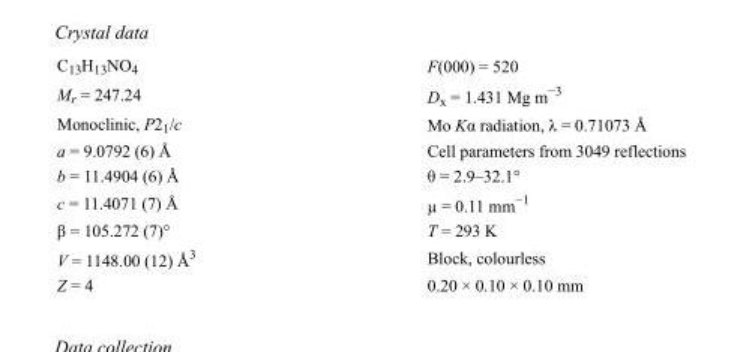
<table><tbody><tr><td>C<sub>13</sub>H<sub>13</sub>NO<sub>4</sub></td><td>F(000) = 520</td></tr><tr><td>M<sub>r</sub> = 247.24</td><td>D<sub>x</sub> = 1.431 Mg m<sup>−3</sup></td></tr><tr><td>Monoclinic, P2<sub>1</sub>/c</td><td>Mo Kα radiation, λ = 0.71073 Å</td></tr><tr><td>a = 9.0792 (6) Å</td><td>Cell parameters from 3049 reflections</td></tr><tr><td>b = 11.4904 (6) Å</td><td>θ = 2.9–32.1°</td></tr><tr><td>c = 11.4071 (7) Å</td><td>µ = 0.11 mm<sup>−1</sup></td></tr><tr><td>β = 105.272 (7)°</td><td>T = 293 K</td></tr><tr><td>V = 1148.00 (12) Å<sup>3</sup></td><td>Block, colourless</td></tr><tr><td>Z = 4</td><td>0.20 × 0.10 × 0.10 mm</td></tr></tbody></table>